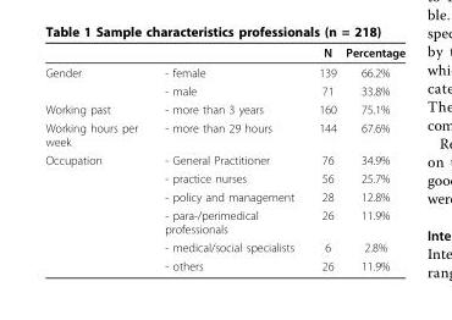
<table><thead><tr><td></td><td></td><td>N</td><td>Percentage</td></tr></thead><tbody><tr><td rowspan="2">Gender</td><td>- female</td><td>139</td><td>66.2%</td></tr><tr><td>- male</td><td>71</td><td>33.8%</td></tr><tr><td>Working past</td><td>- more than 3 years</td><td>160</td><td>75.1%</td></tr><tr><td>Working hours per week</td><td>- more than 29 hours</td><td>144</td><td>67.6%</td></tr><tr><td rowspan="6">Occupation</td><td>- General Practitioner</td><td>76</td><td>34.9%</td></tr><tr><td>- practice nurses</td><td>56</td><td>25.7%</td></tr><tr><td>- policy and management</td><td>28</td><td>12.8%</td></tr><tr><td>- para-/perimedical professionals</td><td>26</td><td>11.9%</td></tr><tr><td>- medical/social specialists</td><td>6</td><td>2.8%</td></tr><tr><td>- others</td><td>26</td><td>11.9%</td></tr></tbody></table>